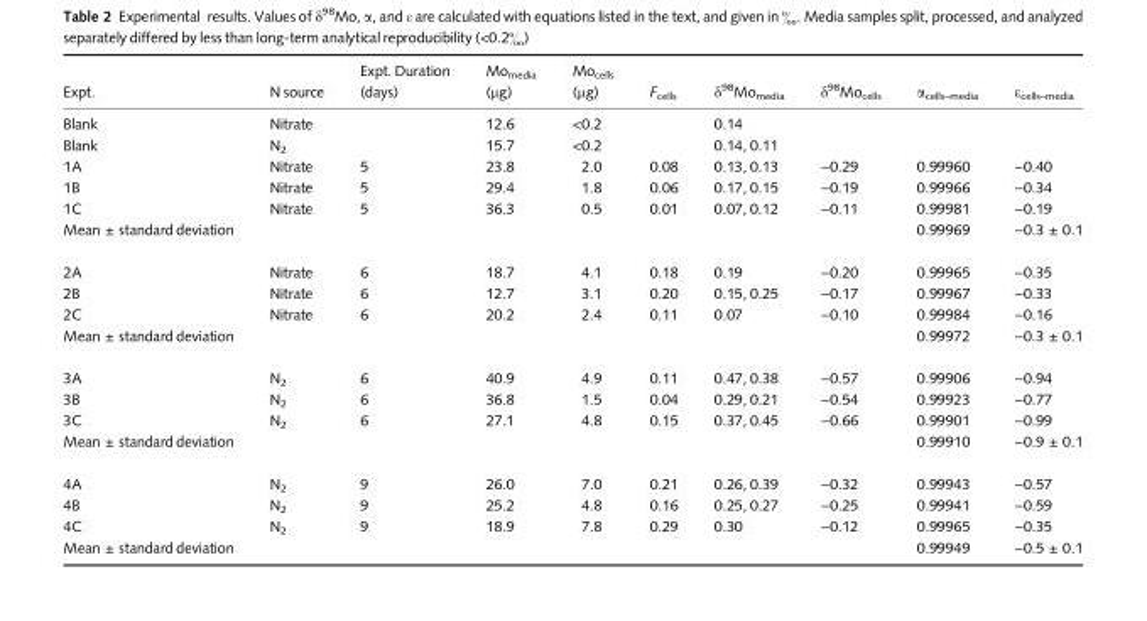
<table><thead><tr><td>Expt.</td><td>N source</td><td>Expt. Duration (days)</td><td>Mo<sub>media</sub> (μg)</td><td>Mo<sub>cells</sub> (μg)</td><td>F<sub>cells</sub></td><td>δ<sup>98</sup>Mo<sub>media</sub></td><td>δ<sup>98</sup>Mo<sub>cells</sub></td><td>α<sub>cells–media</sub></td><td>ε<sub>cells–media</sub></td></tr></thead><tbody><tr><td>Blank</td><td>Nitrate</td><td></td><td>12.6</td><td>&lt;0.2</td><td></td><td>0.14</td><td></td><td></td><td></td></tr><tr><td>Blank</td><td>N<sub>2</sub></td><td></td><td>15.7</td><td>&lt;0.2</td><td></td><td>0.14, 0.11</td><td></td><td></td><td></td></tr><tr><td>1A</td><td>Nitrate</td><td>5</td><td>23.8</td><td>2.0</td><td>0.08</td><td>0.13, 0.13</td><td>−0.29</td><td>0.99960</td><td>−0.40</td></tr><tr><td>1B</td><td>Nitrate</td><td>5</td><td>29.4</td><td>1.8</td><td>0.06</td><td>0.17, 0.15</td><td>−0.19</td><td>0.99966</td><td>−0.34</td></tr><tr><td>1C</td><td>Nitrate</td><td>5</td><td>36.3</td><td>0.5</td><td>0.01</td><td>0.07, 0.12</td><td>−0.11</td><td>0.99981</td><td>−0.19</td></tr><tr><td>Mean ± standard deviation</td><td></td><td></td><td></td><td></td><td></td><td></td><td></td><td>0.99969</td><td>−0.3 ± 0.1</td></tr><tr><td>2A</td><td>Nitrate</td><td>6</td><td>18.7</td><td>4.1</td><td>0.18</td><td>0.19</td><td>−0.20</td><td>0.99965</td><td>−0.35</td></tr><tr><td>2B</td><td>Nitrate</td><td>6</td><td>12.7</td><td>3.1</td><td>0.20</td><td>0.15, 0.25</td><td>−0.17</td><td>0.99967</td><td>−0.33</td></tr><tr><td>2C</td><td>Nitrate</td><td>6</td><td>20.2</td><td>2.4</td><td>0.11</td><td>0.07</td><td>−0.10</td><td>0.99984</td><td>−0.16</td></tr><tr><td>Mean ± standard deviation</td><td></td><td></td><td></td><td></td><td></td><td></td><td></td><td>0.99972</td><td>−0.3 ± 0.1</td></tr><tr><td>3A</td><td>N<sub>2</sub></td><td>6</td><td>40.9</td><td>4.9</td><td>0.11</td><td>0.47, 0.38</td><td>−0.57</td><td>0.99906</td><td>−0.94</td></tr><tr><td>3B</td><td>N<sub>2</sub></td><td>6</td><td>36.8</td><td>1.5</td><td>0.04</td><td>0.29, 0.21</td><td>−0.54</td><td>0.99923</td><td>−0.77</td></tr><tr><td>3C</td><td>N<sub>2</sub></td><td>6</td><td>27.1</td><td>4.8</td><td>0.15</td><td>0.37, 0.45</td><td>−0.66</td><td>0.99901</td><td>−0.99</td></tr><tr><td>Mean ± standard deviation</td><td></td><td></td><td></td><td></td><td></td><td></td><td></td><td>0.99910</td><td>−0.9 ± 0.1</td></tr><tr><td>4A</td><td>N<sub>2</sub></td><td>9</td><td>26.0</td><td>7.0</td><td>0.21</td><td>0.26, 0.39</td><td>−0.32</td><td>0.99943</td><td>−0.57</td></tr><tr><td>4B</td><td>N<sub>2</sub></td><td>9</td><td>25.2</td><td>4.8</td><td>0.16</td><td>0.25, 0.27</td><td>−0.25</td><td>0.99941</td><td>−0.59</td></tr><tr><td>4C</td><td>N<sub>2</sub></td><td>9</td><td>18.9</td><td>7.8</td><td>0.29</td><td>0.30</td><td>−0.12</td><td>0.99965</td><td>−0.35</td></tr><tr><td>Mean ± standard deviation</td><td></td><td></td><td></td><td></td><td></td><td></td><td></td><td>0.99949</td><td>−0.5 ± 0.1</td></tr></tbody></table>